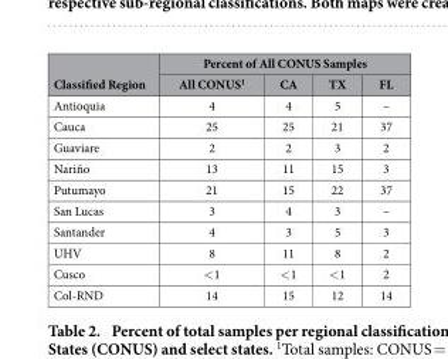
<table><thead><tr><td rowspan="2">Classified Region</td><td colspan="4">Percent of All CONUS Samples</td></tr><tr><td>All CONUS<sup>1</sup></td><td>CA</td><td>TX</td><td>FL</td></tr></thead><tbody><tr><td>Antioquia</td><td>4</td><td>4</td><td>5</td><td>–</td></tr><tr><td>Cauca</td><td>25</td><td>25</td><td>21</td><td>37</td></tr><tr><td>Guaviare</td><td>2</td><td>2</td><td>3</td><td>2</td></tr><tr><td>Nariño</td><td>13</td><td>11</td><td>15</td><td>3</td></tr><tr><td>Putumayo</td><td>21</td><td>15</td><td>22</td><td>37</td></tr><tr><td>San Lucas</td><td>3</td><td>4</td><td>3</td><td>–</td></tr><tr><td>Santander</td><td>4</td><td>3</td><td>5</td><td>3</td></tr><tr><td>UHV</td><td>8</td><td>11</td><td>8</td><td>2</td></tr><tr><td>Cusco</td><td>&lt; 1</td><td>&lt; 1</td><td>&lt; 1</td><td>2</td></tr><tr><td>Col-RND</td><td>14</td><td>15</td><td>12</td><td>14</td></tr></tbody></table>